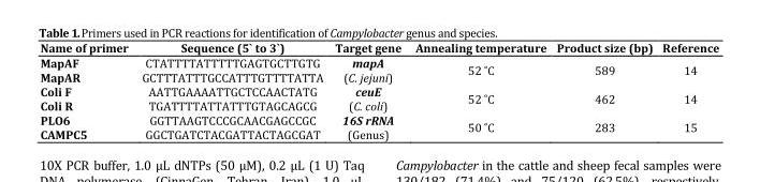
<table><thead><tr><td>Name of primer</td><td>Sequence (5` to 3`)</td><td>Target gene</td><td>Annealing temperature</td><td>Product size (bp)</td><td>Reference</td></tr></thead><tbody><tr><td>MapAF MapAR</td><td>CTATTTTATTTTTGAGTGCTTGTG GCTTTATTTGCCATTTGTTTTATTA</td><td>mapA (C. jejuni)</td><td>52 ˚C</td><td>589</td><td>14</td></tr><tr><td>Coli F Coli R</td><td>AATTGAAAATTGCTCCAACTATG TGATTTTATTATTTGTAGCAGCG</td><td>ceuE (C. coli)</td><td>52 ˚C</td><td>462</td><td>14</td></tr><tr><td>PLO6 CAMPC5</td><td>GGTTAAGTCCCGCAACGAGCCGC GGCTGATCTACGATTACTAGCGAT</td><td>16S rRNA (Genus)</td><td>50 ˚C</td><td>283</td><td>15</td></tr></tbody></table>